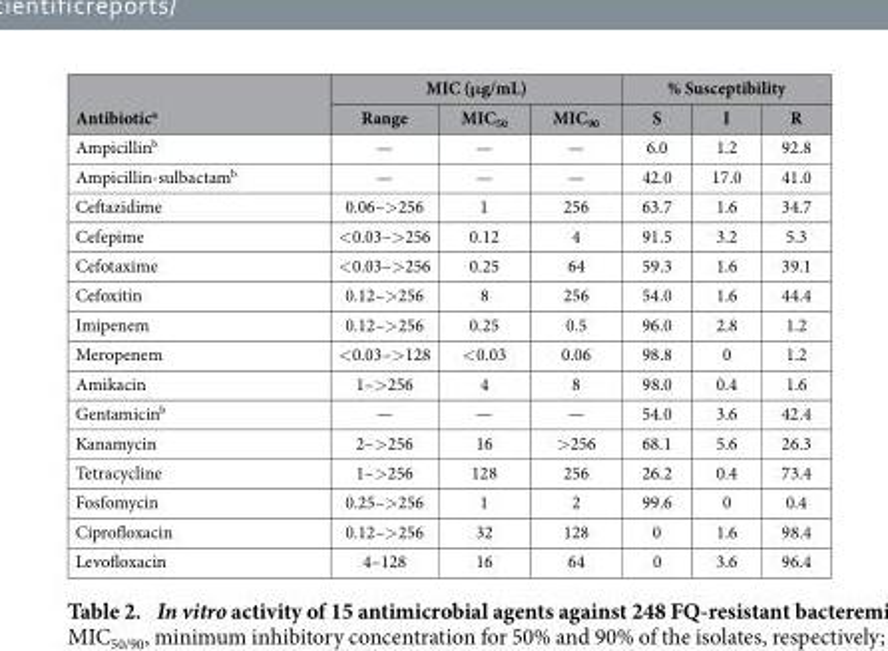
<table><thead><tr><td rowspan="2">Antibiotic<sup>a</sup></td><td colspan="3">MIC (μg/mL)</td><td colspan="3">% Susceptibility</td></tr><tr><td>Range</td><td>MIC<sub>50</sub></td><td>MIC<sub>90</sub></td><td>S</td><td>I</td><td>R</td></tr></thead><tbody><tr><td>Ampicillin<sup>b</sup></td><td>—</td><td>—</td><td>—</td><td>6.0</td><td>1.2</td><td>92.8</td></tr><tr><td>Ampicillin-sulbactam<sup>b</sup></td><td>—</td><td>—</td><td>—</td><td>42.0</td><td>17.0</td><td>41.0</td></tr><tr><td>Ceftazidime</td><td>0.06–&gt; 256</td><td>1</td><td>256</td><td>63.7</td><td>1.6</td><td>34.7</td></tr><tr><td>Cefepime</td><td>&lt; 0.03–&gt; 256</td><td>0.12</td><td>4</td><td>91.5</td><td>3.2</td><td>5.3</td></tr><tr><td>Cefotaxime</td><td>&lt; 0.03–&gt; 256</td><td>0.25</td><td>64</td><td>59.3</td><td>1.6</td><td>39.1</td></tr><tr><td>Cefoxitin</td><td>0.12–&gt; 256</td><td>8</td><td>256</td><td>54.0</td><td>1.6</td><td>44.4</td></tr><tr><td>Imipenem</td><td>0.12–&gt; 256</td><td>0.25</td><td>0.5</td><td>96.0</td><td>2.8</td><td>1.2</td></tr><tr><td>Meropenem</td><td>&lt; 0.03–&gt; 128</td><td>&lt; 0.03</td><td>0.06</td><td>98.8</td><td>0</td><td>1.2</td></tr><tr><td>Amikacin</td><td>1–&gt; 256</td><td>4</td><td>8</td><td>98.0</td><td>0.4</td><td>1.6</td></tr><tr><td>Gentamicin<sup>b</sup></td><td>—</td><td>—</td><td>—</td><td>54.0</td><td>3.6</td><td>42.4</td></tr><tr><td>Kanamycin</td><td>2–&gt; 256</td><td>16</td><td>&gt; 256</td><td>68.1</td><td>5.6</td><td>26.3</td></tr><tr><td>Tetracycline</td><td>1–&gt; 256</td><td>128</td><td>256</td><td>26.2</td><td>0.4</td><td>73.4</td></tr><tr><td>Fosfomycin</td><td>0.25–&gt; 256</td><td>1</td><td>2</td><td>99.6</td><td>0</td><td>0.4</td></tr><tr><td>Ciprofloxacin</td><td>0.12–&gt; 256</td><td>32</td><td>128</td><td>0</td><td>1.6</td><td>98.4</td></tr><tr><td>Levofloxacin</td><td>4–128</td><td>16</td><td>64</td><td>0</td><td>3.6</td><td>96.4</td></tr></tbody></table>